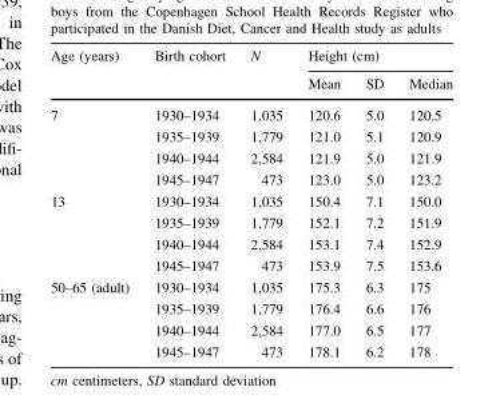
<table><thead><tr><td rowspan="2">Age (years)</td><td rowspan="2">Birth cohort</td><td rowspan="2">N</td><td colspan="3">Height (cm)</td></tr><tr><td>Mean</td><td>SD</td><td>Median</td></tr></thead><tbody><tr><td rowspan="4">7</td><td>1930–1934</td><td>1,035</td><td>120.6</td><td>5.0</td><td>120.5</td></tr><tr><td>1935–1939</td><td>1,779</td><td>121.0</td><td>5.1</td><td>120.9</td></tr><tr><td>1940–1944</td><td>2,584</td><td>121.9</td><td>5.0</td><td>121.9</td></tr><tr><td>1945–1947</td><td>473</td><td>123.0</td><td>5.0</td><td>123.2</td></tr><tr><td rowspan="4">13</td><td>1930–1934</td><td>1,035</td><td>150.4</td><td>7.1</td><td>150.0</td></tr><tr><td>1935–1939</td><td>1,779</td><td>152.1</td><td>7.2</td><td>151.9</td></tr><tr><td>1940–1944</td><td>2,584</td><td>153.1</td><td>7.4</td><td>152.9</td></tr><tr><td>1945–1947</td><td>473</td><td>153.9</td><td>7.5</td><td>153.6</td></tr><tr><td rowspan="4">50–65 (adult)</td><td>1930–1934</td><td>1,035</td><td>175.3</td><td>6.3</td><td>175</td></tr><tr><td>1935–1939</td><td>1,779</td><td>176.4</td><td>6.6</td><td>176</td></tr><tr><td>1940–1944</td><td>2,584</td><td>177.0</td><td>6.5</td><td>177</td></tr><tr><td>1945–1947</td><td>473</td><td>178.1</td><td>6.2</td><td>178</td></tr></tbody></table>